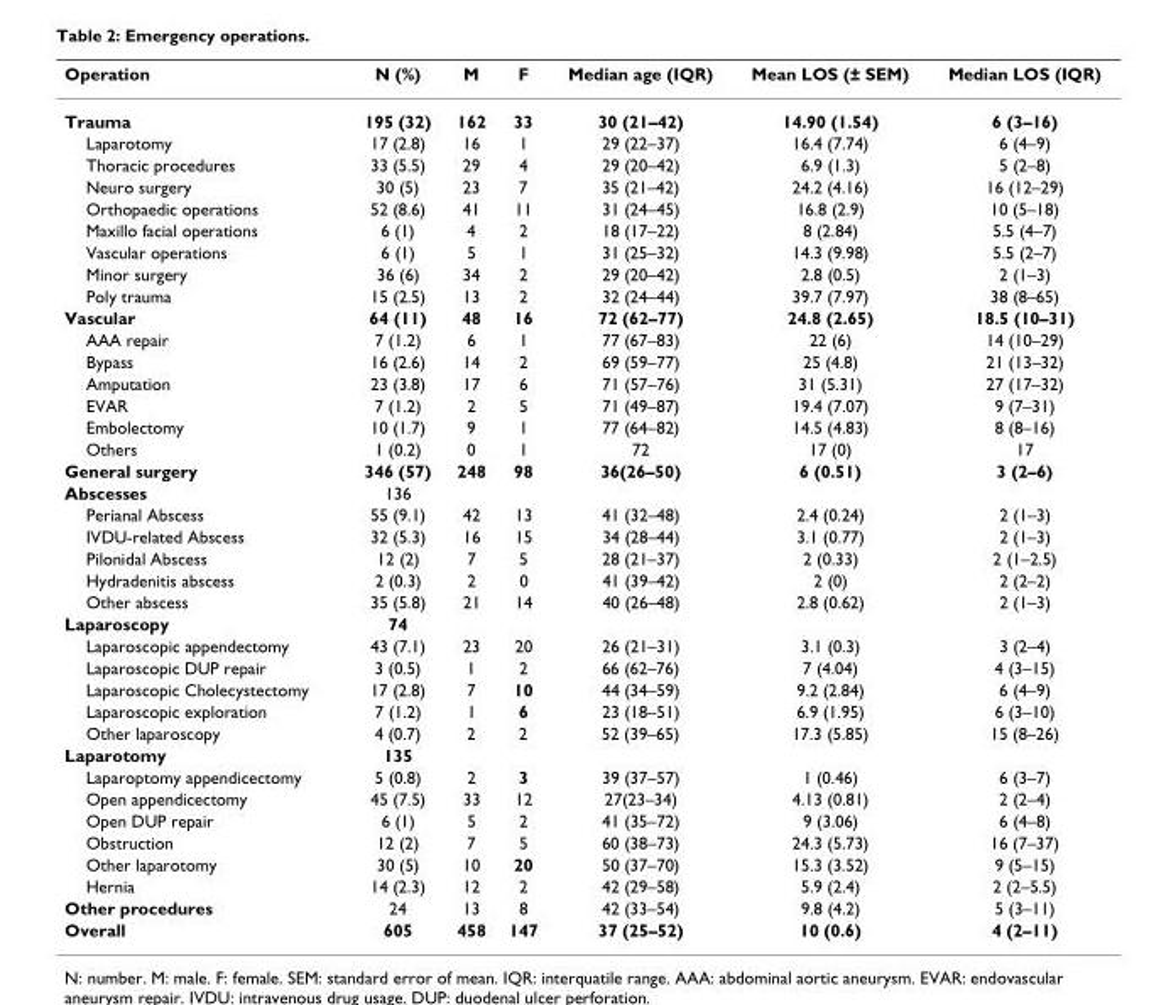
<table><thead><tr><td>Operation</td><td>N (%)</td><td>M</td><td>F</td><td>Median age (IQR)</td><td>Mean LOS (± SEM)</td><td>Median LOS (IQR)</td></tr></thead><tbody><tr><td>Trauma</td><td>195 (32)</td><td>162</td><td>33</td><td>30 (21–42)</td><td>14.90 (1.54)</td><td>6 (3–16)</td></tr><tr><td>Laparotomy</td><td>17 (2.8)</td><td>16</td><td>1</td><td>29 (22–37)</td><td>16.4 (7.74)</td><td>6 (4–9)</td></tr><tr><td>Thoracic procedures</td><td>33 (5.5)</td><td>29</td><td>4</td><td>29 (20–42)</td><td>6.9 (1.3)</td><td>5 (2–8)</td></tr><tr><td>Neuro surgery</td><td>30 (5)</td><td>23</td><td>7</td><td>35 (21–42)</td><td>24.2 (4.16)</td><td>16 (12–29)</td></tr><tr><td>Orthopaedic operations</td><td>52 (8.6)</td><td>41</td><td>11</td><td>31 (24–45)</td><td>16.8 (2.9)</td><td>10 (5–18)</td></tr><tr><td>Maxillo facial operations</td><td>6 (1)</td><td>4</td><td>2</td><td>18 (17–22)</td><td>8 (2.84)</td><td>5.5 (4–7)</td></tr><tr><td>Vascular operations</td><td>6 (1)</td><td>5</td><td>1</td><td>31 (25–32)</td><td>14.3 (9.98)</td><td>5.5 (2–7)</td></tr><tr><td>Minor surgery</td><td>36 (6)</td><td>34</td><td>2</td><td>29 (20–42)</td><td>2.8 (0.5)</td><td>2 (1–3)</td></tr><tr><td>Poly trauma</td><td>15 (2.5)</td><td>13</td><td>2</td><td>32 (24–44)</td><td>39.7 (7.97)</td><td>38 (8–65)</td></tr><tr><td>Vascular</td><td>64 (11)</td><td>48</td><td>16</td><td>72 (62–77)</td><td>24.8 (2.65)</td><td>18.5 (10–31)</td></tr><tr><td>AAA repair</td><td>7 (1.2)</td><td>6</td><td>1</td><td>77 (67–83)</td><td>22 (6)</td><td>14 (10–29)</td></tr><tr><td>Bypass</td><td>16 (2.6)</td><td>14</td><td>2</td><td>69 (59–77)</td><td>25 (4.8)</td><td>21 (13–32)</td></tr><tr><td>Amputation</td><td>23 (3.8)</td><td>17</td><td>6</td><td>71 (57–76)</td><td>31 (5.31)</td><td>27 (17–32)</td></tr><tr><td>EVAR</td><td>7 (1.2)</td><td>2</td><td>5</td><td>71 (49–87)</td><td>19.4 (7.07)</td><td>9 (7–31)</td></tr><tr><td>Embolectomy</td><td>10 (1.7)</td><td>9</td><td>1</td><td>77 (64–82)</td><td>14.5 (4.83)</td><td>8 (8–16)</td></tr><tr><td>Others</td><td>1 (0.2)</td><td>0</td><td>1</td><td>72</td><td>17 (0)</td><td>17</td></tr><tr><td>General surgery</td><td>346 (57)</td><td>248</td><td>98</td><td>36(26–50)</td><td>6 (0.51)</td><td>3 (2–6)</td></tr><tr><td>Abscesses</td><td>136</td><td></td><td></td><td></td><td></td><td></td></tr><tr><td>Perianal Abscess</td><td>55 (9.1)</td><td>42</td><td>13</td><td>41 (32–48)</td><td>2.4 (0.24)</td><td>2 (1–3)</td></tr><tr><td>IVDU-related Abscess</td><td>32 (5.3)</td><td>16</td><td>15</td><td>34 (28–44)</td><td>3.1 (0.77)</td><td>2 (1–3)</td></tr><tr><td>Pilonidal Abscess</td><td>12 (2)</td><td>7</td><td>5</td><td>28 (21–37)</td><td>2 (0.33)</td><td>2 (1–2.5)</td></tr><tr><td>Hydradenitis abscess</td><td>2 (0.3)</td><td>2</td><td>0</td><td>41 (39–42)</td><td>2 (0)</td><td>2 (2–2)</td></tr><tr><td>Other abscess</td><td>35 (5.8)</td><td>21</td><td>14</td><td>40 (26–48)</td><td>2.8 (0.62)</td><td>2 (1–3)</td></tr><tr><td>Laparoscopy</td><td>74</td><td></td><td></td><td></td><td></td><td></td></tr><tr><td>Laparoscopic appendectomy</td><td>43 (7.1)</td><td>23</td><td>20</td><td>26 (21–31)</td><td>3.1 (0.3)</td><td>3 (2–4)</td></tr><tr><td>Laparoscopic DUP repair</td><td>3 (0.5)</td><td>1</td><td>2</td><td>66 (62–76)</td><td>7 (4.04)</td><td>4 (3–15)</td></tr><tr><td>Laparoscopic Cholecystectomy</td><td>17 (2.8)</td><td>7</td><td>10</td><td>44 (34–59)</td><td>9.2 (2.84)</td><td>6 (4–9)</td></tr><tr><td>Laparoscopic exploration</td><td>7 (1.2)</td><td>1</td><td>6</td><td>23 (18–51)</td><td>6.9 (1.95)</td><td>6 (3–10)</td></tr><tr><td>Other laparoscopy</td><td>4 (0.7)</td><td>2</td><td>2</td><td>52 (39–65)</td><td>17.3 (5.85)</td><td>15 (8–26)</td></tr><tr><td>Laparotomy</td><td>135</td><td></td><td></td><td></td><td></td><td></td></tr><tr><td>Laparoptomy appendicectomy</td><td>5 (0.8)</td><td>2</td><td>3</td><td>39 (37–57)</td><td>1 (0.46)</td><td>6 (3–7)</td></tr><tr><td>Open appendicectomy</td><td>45 (7.5)</td><td>33</td><td>12</td><td>27(23–34)</td><td>4.13 (0.81)</td><td>2 (2–4)</td></tr><tr><td>Open DUP repair</td><td>6 (1)</td><td>5</td><td>2</td><td>41 (35–72)</td><td>9 (3.06)</td><td>6 (4–8)</td></tr><tr><td>Obstruction</td><td>12 (2)</td><td>7</td><td>5</td><td>60 (38–73)</td><td>24.3 (5.73)</td><td>16 (7–37)</td></tr><tr><td>Other laparotomy</td><td>30 (5)</td><td>10</td><td>20</td><td>50 (37–70)</td><td>15.3 (3.52)</td><td>9 (5–15)</td></tr><tr><td>Hernia</td><td>14 (2.3)</td><td>12</td><td>2</td><td>42 (29–58)</td><td>5.9 (2.4)</td><td>2 (2–5.5)</td></tr><tr><td>Other procedures</td><td>24</td><td>13</td><td>8</td><td>42 (33–54)</td><td>9.8 (4.2)</td><td>5 (3–11)</td></tr><tr><td>Overall</td><td>605</td><td>458</td><td>147</td><td>37 (25–52)</td><td>10 (0.6)</td><td>4 (2–11)</td></tr></tbody></table>